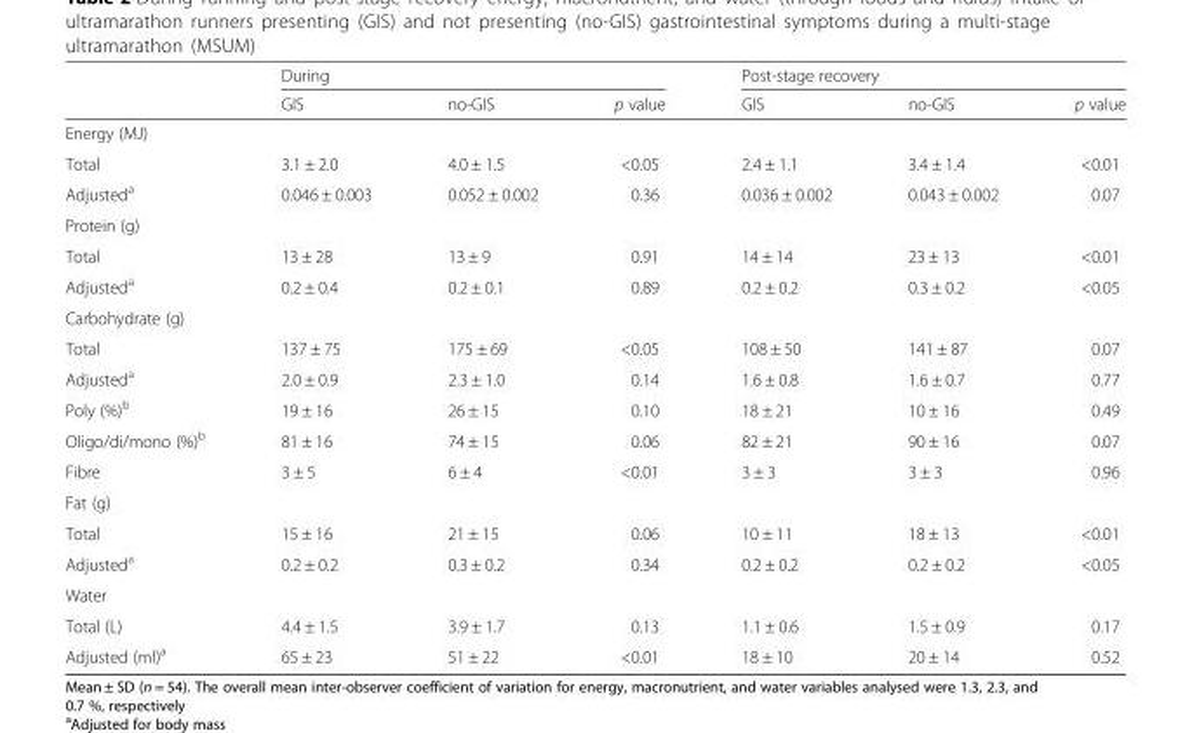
<table><thead><tr><td rowspan="2"></td><td colspan="3">During</td><td colspan="3">Post-stage recovery</td></tr><tr><td>GIS</td><td>no-GIS</td><td>p value</td><td>GIS</td><td>no-GIS</td><td>p value</td></tr></thead><tbody><tr><td colspan="7">Energy (MJ)</td></tr><tr><td>Total</td><td>3.1 ± 2.0</td><td>4.0 ± 1.5</td><td>&lt;0.05</td><td>2.4 ± 1.1</td><td>3.4 ± 1.4</td><td>&lt;0.01</td></tr><tr><td>Adjusted<sup>a</sup></td><td>0.046 ± 0.003</td><td>0.052 ± 0.002</td><td>0.36</td><td>0.036 ± 0.002</td><td>0.043 ± 0.002</td><td>0.07</td></tr><tr><td colspan="7">Protein (g)</td></tr><tr><td>Total</td><td>13 ± 28</td><td>13 ± 9</td><td>0.91</td><td>14 ± 14</td><td>23 ± 13</td><td>&lt;0.01</td></tr><tr><td>Adjusted<sup>a</sup></td><td>0.2 ± 0.4</td><td>0.2 ± 0.1</td><td>0.89</td><td>0.2 ± 0.2</td><td>0.3 ± 0.2</td><td>&lt;0.05</td></tr><tr><td colspan="7">Carbohydrate (g)</td></tr><tr><td>Total</td><td>137 ± 75</td><td>175 ± 69</td><td>&lt;0.05</td><td>108 ± 50</td><td>141 ± 87</td><td>0.07</td></tr><tr><td>Adjusted<sup>a</sup></td><td>2.0 ± 0.9</td><td>2.3 ± 1.0</td><td>0.14</td><td>1.6 ± 0.8</td><td>1.6 ± 0.7</td><td>0.77</td></tr><tr><td>Poly (%)<sup>b</sup></td><td>19 ± 16</td><td>26 ± 15</td><td>0.10</td><td>18 ± 21</td><td>10 ± 16</td><td>0.49</td></tr><tr><td>Oligo/di/mono (%)<sup>b</sup></td><td>81 ± 16</td><td>74 ± 15</td><td>0.06</td><td>82 ± 21</td><td>90 ± 16</td><td>0.07</td></tr><tr><td>Fibre</td><td>3 ± 5</td><td>6 ± 4</td><td>&lt;0.01</td><td>3 ± 3</td><td>3 ± 3</td><td>0.96</td></tr><tr><td colspan="7">Fat (g)</td></tr><tr><td>Total</td><td>15 ± 16</td><td>21 ± 15</td><td>0.06</td><td>10 ± 11</td><td>18 ± 13</td><td>&lt;0.01</td></tr><tr><td>Adjusted<sup>a</sup></td><td>0.2 ± 0.2</td><td>0.3 ± 0.2</td><td>0.34</td><td>0.2 ± 0.2</td><td>0.2 ± 0.2</td><td>&lt;0.05</td></tr><tr><td colspan="7">Water</td></tr><tr><td>Total (L)</td><td>4.4 ± 1.5</td><td>3.9 ± 1.7</td><td>0.13</td><td>1.1 ± 0.6</td><td>1.5 ± 0.9</td><td>0.17</td></tr><tr><td>Adjusted (ml)<sup>a</sup></td><td>65 ± 23</td><td>51 ± 22</td><td>&lt;0.01</td><td>18 ± 10</td><td>20 ± 14</td><td>0.52</td></tr></tbody></table>